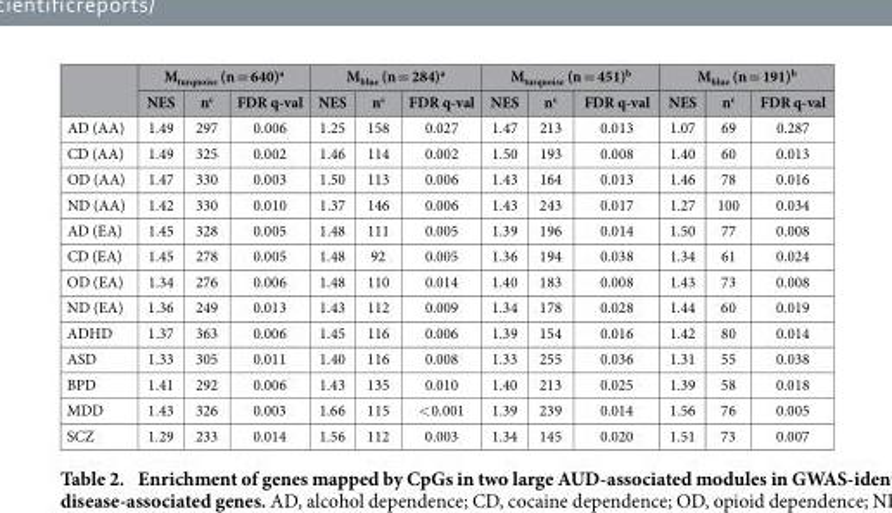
<table><thead><tr><td rowspan="2"></td><td colspan="3">M<sub>turquoise</sub> (n = 640)<sup>a</sup></td><td colspan="3">M<sub>blue</sub> (n = 284)<sup>a</sup></td><td colspan="3">M<sub>turquoise</sub> (n = 451)<sup>b</sup></td><td colspan="3">M<sub>blue</sub> (n = 191)<sup>b</sup></td></tr><tr><td>NES</td><td>n<sup>c</sup></td><td>FDR q-val</td><td>NES</td><td>n<sup>c</sup></td><td>FDR q-val</td><td>NES</td><td>n<sup>c</sup></td><td>FDR q-val</td><td>NES</td><td>n<sup>c</sup></td><td>FDR q-val</td></tr></thead><tbody><tr><td>AD (AA)</td><td>1.49</td><td>297</td><td>0.006</td><td>1.25</td><td>158</td><td>0.027</td><td>1.47</td><td>213</td><td>0.013</td><td>1.07</td><td>69</td><td>0.287</td></tr><tr><td>CD (AA)</td><td>1.49</td><td>325</td><td>0.002</td><td>1.46</td><td>114</td><td>0.002</td><td>1.50</td><td>193</td><td>0.008</td><td>1.40</td><td>60</td><td>0.013</td></tr><tr><td>OD (AA)</td><td>1.47</td><td>330</td><td>0.003</td><td>1.50</td><td>113</td><td>0.006</td><td>1.43</td><td>164</td><td>0.013</td><td>1.46</td><td>78</td><td>0.016</td></tr><tr><td>ND (AA)</td><td>1.42</td><td>330</td><td>0.010</td><td>1.37</td><td>146</td><td>0.006</td><td>1.43</td><td>243</td><td>0.017</td><td>1.27</td><td>100</td><td>0.034</td></tr><tr><td>AD (EA)</td><td>1.45</td><td>328</td><td>0.005</td><td>1.48</td><td>111</td><td>0.005</td><td>1.39</td><td>196</td><td>0.014</td><td>1.50</td><td>77</td><td>0.008</td></tr><tr><td>CD (EA)</td><td>1.45</td><td>278</td><td>0.005</td><td>1.48</td><td>92</td><td>0.005</td><td>1.36</td><td>194</td><td>0.038</td><td>1.34</td><td>61</td><td>0.024</td></tr><tr><td>OD (EA)</td><td>1.34</td><td>276</td><td>0.006</td><td>1.48</td><td>110</td><td>0.014</td><td>1.40</td><td>183</td><td>0.008</td><td>1.43</td><td>73</td><td>0.008</td></tr><tr><td>ND (EA)</td><td>1.36</td><td>249</td><td>0.013</td><td>1.43</td><td>112</td><td>0.009</td><td>1.34</td><td>178</td><td>0.028</td><td>1.44</td><td>60</td><td>0.019</td></tr><tr><td>ADHD</td><td>1.37</td><td>363</td><td>0.006</td><td>1.45</td><td>116</td><td>0.006</td><td>1.39</td><td>154</td><td>0.016</td><td>1.42</td><td>80</td><td>0.014</td></tr><tr><td>ASD</td><td>1.33</td><td>305</td><td>0.011</td><td>1.40</td><td>116</td><td>0.008</td><td>1.33</td><td>255</td><td>0.036</td><td>1.31</td><td>55</td><td>0.038</td></tr><tr><td>BPD</td><td>1.41</td><td>292</td><td>0.006</td><td>1.43</td><td>135</td><td>0.010</td><td>1.40</td><td>213</td><td>0.025</td><td>1.39</td><td>58</td><td>0.018</td></tr><tr><td>MDD</td><td>1.43</td><td>326</td><td>0.003</td><td>1.66</td><td>115</td><td>&lt; 0.001</td><td>1.39</td><td>239</td><td>0.014</td><td>1.56</td><td>76</td><td>0.005</td></tr><tr><td>SCZ</td><td>1.29</td><td>233</td><td>0.014</td><td>1.56</td><td>112</td><td>0.003</td><td>1.34</td><td>145</td><td>0.020</td><td>1.51</td><td>73</td><td>0.007</td></tr></tbody></table>